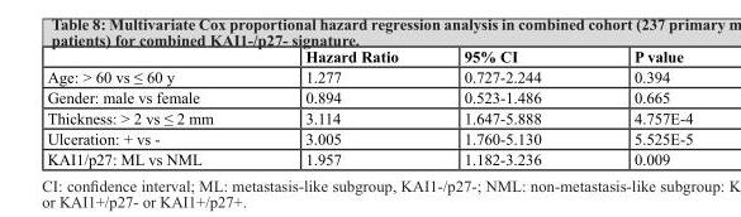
<table><thead><tr><td></td><td>Hazard Ratio</td><td>95% CI</td><td>P value</td></tr></thead><tbody><tr><td>Age: &gt; 60 vs ≤ 60 y</td><td>1.277</td><td>0.727-2.244</td><td>0.394</td></tr><tr><td>Gender: male vs female</td><td>0.894</td><td>0.523-1.486</td><td>0.665</td></tr><tr><td>Thickness: &gt; 2 vs ≤ 2 mm</td><td>3.114</td><td>1.647-5.888</td><td>4.757E-4</td></tr><tr><td>Ulceration: + vs -</td><td>3.005</td><td>1.760-5.130</td><td>5.525E-5</td></tr><tr><td>KAI1/p27: ML vs NML</td><td>1.957</td><td>1.182-3.236</td><td>0.009</td></tr></tbody></table>